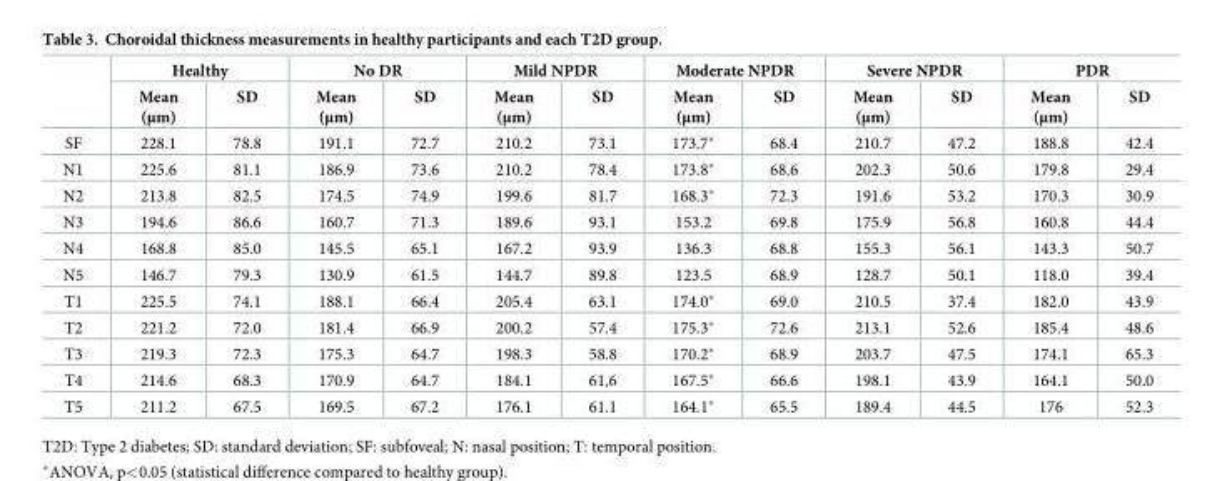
<table><thead><tr><td rowspan="2"></td><td colspan="2">Healthy</td><td colspan="2">No DR</td><td colspan="2">Mild NPDR</td><td colspan="2">Moderate NPDR</td><td colspan="2">Severe NPDR</td><td colspan="2">PDR</td></tr><tr><td>Mean (μm)</td><td>SD</td><td>Mean (μm)</td><td>SD</td><td>Mean (μm)</td><td>SD</td><td>Mean (μm)</td><td>SD</td><td>Mean (μm)</td><td>SD</td><td>Mean (μm)</td><td>SD</td></tr></thead><tbody><tr><td>SF</td><td>228.1</td><td>78.8</td><td>191.1</td><td>72.7</td><td>210.2</td><td>73.1</td><td>173.7*</td><td>68.4</td><td>210.7</td><td>47.2</td><td>188.8</td><td>42.4</td></tr><tr><td>N1</td><td>225.6</td><td>81.1</td><td>186.9</td><td>73.6</td><td>210.2</td><td>78.4</td><td>173.8*</td><td>68.6</td><td>202.3</td><td>50.6</td><td>179.8</td><td>29.4</td></tr><tr><td>N2</td><td>213.8</td><td>82.5</td><td>174.5</td><td>74.9</td><td>199.6</td><td>81.7</td><td>168.3*</td><td>72.3</td><td>191.6</td><td>53.2</td><td>170.3</td><td>30.9</td></tr><tr><td>N3</td><td>194.6</td><td>86.6</td><td>160.7</td><td>71.3</td><td>189.6</td><td>93.1</td><td>153.2</td><td>69.8</td><td>175.9</td><td>56.8</td><td>160.8</td><td>44.4</td></tr><tr><td>N4</td><td>168.8</td><td>85.0</td><td>145.5</td><td>65.1</td><td>167.2</td><td>93.9</td><td>136.3</td><td>68.8</td><td>155.3</td><td>56.1</td><td>143.3</td><td>50.7</td></tr><tr><td>N5</td><td>146.7</td><td>79.3</td><td>130.9</td><td>61.5</td><td>144.7</td><td>89.8</td><td>123.5</td><td>68.9</td><td>128.7</td><td>50.1</td><td>118.0</td><td>39.4</td></tr><tr><td>T1</td><td>225.5</td><td>74.1</td><td>188.1</td><td>66.4</td><td>205.4</td><td>63.1</td><td>174.0*</td><td>69.0</td><td>210.5</td><td>37.4</td><td>182.0</td><td>43.9</td></tr><tr><td>T2</td><td>221.2</td><td>72.0</td><td>181.4</td><td>66.9</td><td>200.2</td><td>57.4</td><td>175.3*</td><td>72.6</td><td>213.1</td><td>52.6</td><td>185.4</td><td>48.6</td></tr><tr><td>T3</td><td>219.3</td><td>72.3</td><td>175.3</td><td>64.7</td><td>198.3</td><td>58.8</td><td>170.2*</td><td>68.9</td><td>203.7</td><td>47.5</td><td>174.1</td><td>65.3</td></tr><tr><td>T4</td><td>214.6</td><td>68.3</td><td>170.9</td><td>64.7</td><td>184.1</td><td>61,6</td><td>167.5*</td><td>66.6</td><td>198.1</td><td>43.9</td><td>164.1</td><td>50.0</td></tr><tr><td>T5</td><td>211.2</td><td>67.5</td><td>169.5</td><td>67.2</td><td>176.1</td><td>61.1</td><td>164.1*</td><td>65.5</td><td>189.4</td><td>44.5</td><td>176</td><td>52.3</td></tr></tbody></table>